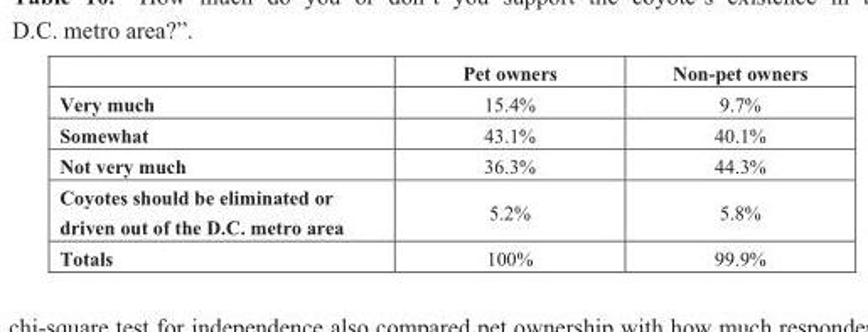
<table><thead><tr><td></td><td>Pet owners</td><td>Non-pet owners</td></tr></thead><tbody><tr><td>Very much</td><td>15.4%</td><td>9.7%</td></tr><tr><td>Somewhat</td><td>43.1%</td><td>40.1%</td></tr><tr><td>Not very much</td><td>36.3%</td><td>44.3%</td></tr><tr><td>Coyotes should be eliminated or driven out of the D.C. metro area</td><td>5.2%</td><td>5.8%</td></tr><tr><td>Totals</td><td>100%</td><td>99.9%</td></tr></tbody></table>